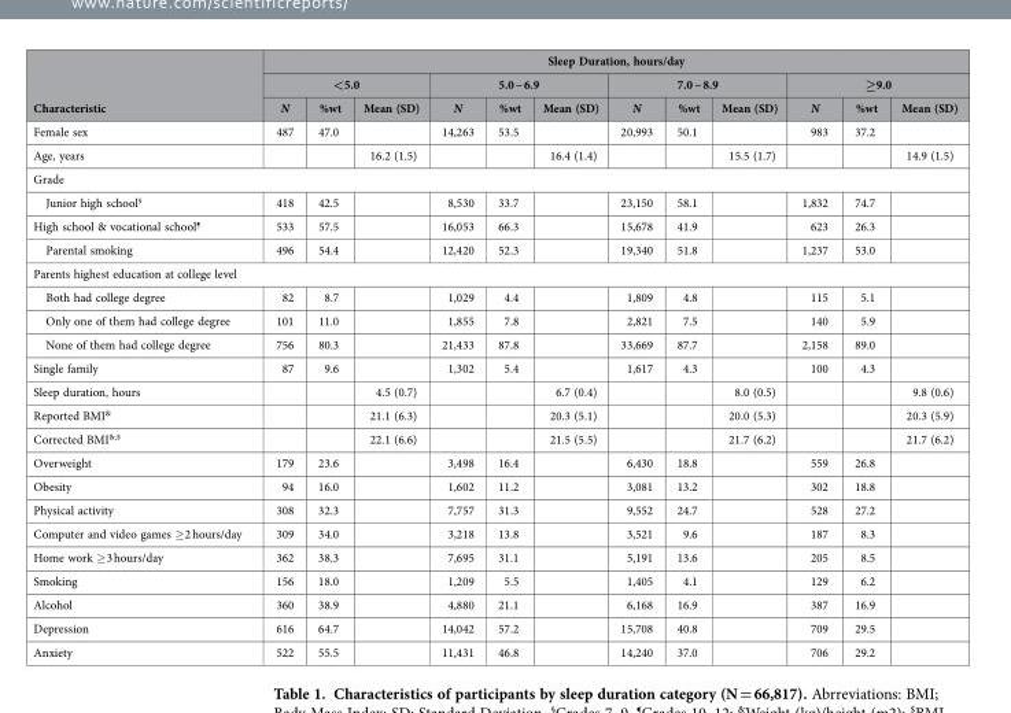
<table><thead><tr><td rowspan="3">Characteristic</td><td colspan="12">Sleep Duration, hours/day</td></tr><tr><td colspan="3">&lt;5.0</td><td colspan="3">5.0 ~ 6.9</td><td colspan="3">7.0 ~ 8.9</td><td colspan="3">≥9.0</td></tr><tr><td>N</td><td>%wt</td><td>Mean (SD)</td><td>N</td><td>%wt</td><td>Mean (SD)</td><td>N</td><td>%wt</td><td>Mean (SD)</td><td>N</td><td>%wt</td><td>Mean (SD)</td></tr></thead><tbody><tr><td>Female sex</td><td>487</td><td>47.0</td><td></td><td>14,263</td><td>53.5</td><td></td><td>20,993</td><td>50.1</td><td></td><td>983</td><td>37.2</td><td></td></tr><tr><td>Age, years</td><td></td><td></td><td>16.2 (1.5)</td><td></td><td></td><td>16.4 (1.4)</td><td></td><td></td><td>15.5 (1.7)</td><td></td><td></td><td>14.9 (1.5)</td></tr><tr><td colspan="13">Grade</td></tr><tr><td>Junior high school<sup>§</sup></td><td>418</td><td>42.5</td><td></td><td>8,530</td><td>33.7</td><td></td><td>23,150</td><td>58.1</td><td></td><td>1,832</td><td>74.7</td><td></td></tr><tr><td>High school &amp; vocational school<sup>¶</sup></td><td>533</td><td>57.5</td><td></td><td>16,053</td><td>66.3</td><td></td><td>15,678</td><td>41.9</td><td></td><td>623</td><td>26.3</td><td></td></tr><tr><td>Parental smoking</td><td>496</td><td>54.4</td><td></td><td>12,420</td><td>52.3</td><td></td><td>19,340</td><td>51.8</td><td></td><td>1,237</td><td>53.0</td><td></td></tr><tr><td colspan="13">Parents highest education at college level</td></tr><tr><td>Both had college degree</td><td>82</td><td>8.7</td><td></td><td>1,029</td><td>4.4</td><td></td><td>1,809</td><td>4.8</td><td></td><td>115</td><td>5.1</td><td></td></tr><tr><td>Only one of them had college degree</td><td>101</td><td>11.0</td><td></td><td>1,855</td><td>7.8</td><td></td><td>2,821</td><td>7.5</td><td></td><td>140</td><td>5.9</td><td></td></tr><tr><td>None of them had college degree</td><td>756</td><td>80.3</td><td></td><td>21,433</td><td>87.8</td><td></td><td>33,669</td><td>87.7</td><td></td><td>2,158</td><td>89.0</td><td></td></tr><tr><td>Single family</td><td>87</td><td>9.6</td><td></td><td>1,302</td><td>5.4</td><td></td><td>1,617</td><td>4.3</td><td></td><td>100</td><td>4.3</td><td></td></tr><tr><td>Sleep duration, hours</td><td></td><td></td><td>4.5 (0.7)</td><td></td><td></td><td>6.7 (0.4)</td><td></td><td></td><td>8.0 (0.5)</td><td></td><td></td><td>9.8 (0.6)</td></tr><tr><td>Reported BMI<sup>&amp;</sup></td><td></td><td></td><td>21.1 (6.3)</td><td></td><td></td><td>20.3 (5.1)</td><td></td><td></td><td>20.0 (5.3)</td><td></td><td></td><td>20.3 (5.9)</td></tr><tr><td>Corrected BMI<sup>&amp;,$</sup></td><td></td><td></td><td>22.1 (6.6)</td><td></td><td></td><td>21.5 (5.5)</td><td></td><td></td><td>21.7 (6.2)</td><td></td><td></td><td>21.7 (6.2)</td></tr><tr><td>Overweight</td><td>179</td><td>23.6</td><td></td><td>3,498</td><td>16.4</td><td></td><td>6,430</td><td>18.8</td><td></td><td>559</td><td>26.8</td><td></td></tr><tr><td>Obesity</td><td>94</td><td>16.0</td><td></td><td>1,602</td><td>11.2</td><td></td><td>3,081</td><td>13.2</td><td></td><td>302</td><td>18.8</td><td></td></tr><tr><td>Physical activity</td><td>308</td><td>32.3</td><td></td><td>7,757</td><td>31.3</td><td></td><td>9,552</td><td>24.7</td><td></td><td>528</td><td>27.2</td><td></td></tr><tr><td>Computer and video games ≥ 2 hours/day</td><td>309</td><td>34.0</td><td></td><td>3,218</td><td>13.8</td><td></td><td>3,521</td><td>9.6</td><td></td><td>187</td><td>8.3</td><td></td></tr><tr><td>Home work ≥ 3 hours/day</td><td>362</td><td>38.3</td><td></td><td>7,695</td><td>31.1</td><td></td><td>5,191</td><td>13.6</td><td></td><td>205</td><td>8.5</td><td></td></tr><tr><td>Smoking</td><td>156</td><td>18.0</td><td></td><td>1,209</td><td>5.5</td><td></td><td>1,405</td><td>4.1</td><td></td><td>129</td><td>6.2</td><td></td></tr><tr><td>Alcohol</td><td>360</td><td>38.9</td><td></td><td>4,880</td><td>21.1</td><td></td><td>6,168</td><td>16.9</td><td></td><td>387</td><td>16.9</td><td></td></tr><tr><td>Depression</td><td>616</td><td>64.7</td><td></td><td>14,042</td><td>57.2</td><td></td><td>15,708</td><td>40.8</td><td></td><td>709</td><td>29.5</td><td></td></tr><tr><td>Anxiety</td><td>522</td><td>55.5</td><td></td><td>11,431</td><td>46.8</td><td></td><td>14,240</td><td>37.0</td><td></td><td>706</td><td>29.2</td><td></td></tr></tbody></table>